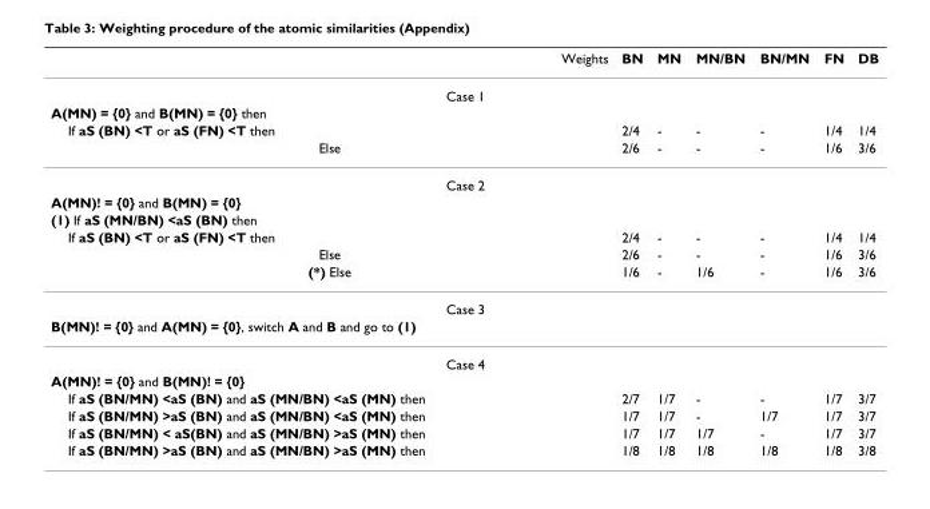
<table><thead><tr><td>Weights</td><td>BN</td><td>MN</td><td>MN/BN</td><td>BN/MN</td><td>FN</td><td>DB</td></tr></thead><tbody><tr><td colspan="7">Case 1</td></tr><tr><td colspan="7">A(MN) = {0} and B(MN) = {0} then</td></tr><tr><td>If aS (BN) &lt;T or aS (FN) &lt;T then</td><td>2/4</td><td>-</td><td>-</td><td>-</td><td>1/4</td><td>1/4</td></tr><tr><td>Else</td><td>2/6</td><td>-</td><td>-</td><td>-</td><td>1/6</td><td>3/6</td></tr><tr><td colspan="7">Case 2</td></tr><tr><td colspan="7">A(MN)! = {0} and B(MN) = {0}</td></tr><tr><td colspan="7">(1) If aS (MN/BN) &lt;aS (BN) then</td></tr><tr><td>If aS (BN) &lt;T or aS (FN) &lt;T then</td><td>2/4</td><td>-</td><td>-</td><td>-</td><td>1/4</td><td>1/4</td></tr><tr><td>Else</td><td>2/6</td><td>-</td><td>-</td><td>-</td><td>1/6</td><td>3/6</td></tr><tr><td>(*) Else</td><td>1/6</td><td>-</td><td>1/6</td><td>-</td><td>1/6</td><td>3/6</td></tr><tr><td colspan="7">Case 3</td></tr><tr><td colspan="7">B(MN)! = {0} and A(MN) = {0}, switch A and B and go to (1)</td></tr><tr><td colspan="7">Case 4</td></tr><tr><td colspan="7">A(MN)! = {0} and B(MN)! = {0}</td></tr><tr><td>If aS (BN/MN) &lt;aS (BN) and aS (MN/BN) &lt;aS (MN) then</td><td>2/7</td><td>1/7</td><td>-</td><td>-</td><td>1/7</td><td>3/7</td></tr><tr><td>If aS (BN/MN) &gt;aS (BN) and aS (MN/BN) &lt;aS (MN) then</td><td>1/7</td><td>1/7</td><td>-</td><td>1/7</td><td>1/7</td><td>3/7</td></tr><tr><td>If aS (BN/MN) &lt; aS(BN) and aS (MN/BN) &gt;aS (MN) then</td><td>1/7</td><td>1/7</td><td>1/7</td><td>-</td><td>1/7</td><td>3/7</td></tr><tr><td>If aS (BN/MN) &gt;aS (BN) and aS (MN/BN) &gt;aS (MN) then</td><td>1/8</td><td>1/8</td><td>1/8</td><td>1/8</td><td>1/8</td><td>3/8</td></tr></tbody></table>